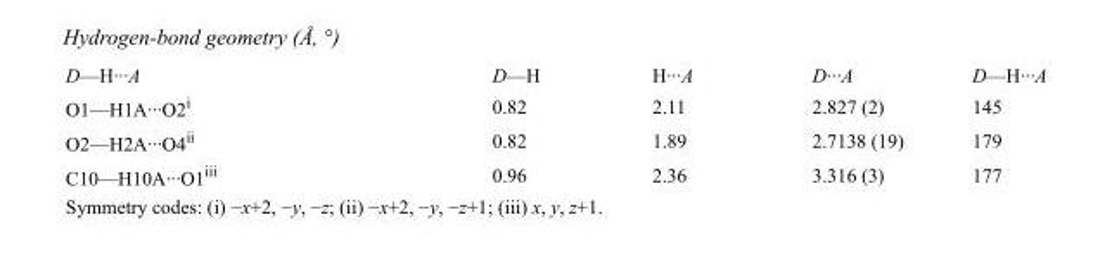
<table><tbody><tr><td>D—H···A</td><td>D—H</td><td>H···A</td><td>D···A</td><td>D—H···A</td></tr><tr><td>O1—H1A···O2<sup>i</sup></td><td>0.82</td><td>2.11</td><td>2.827 (2)</td><td>145</td></tr><tr><td>O2—H2A···O4<sup>ii</sup></td><td>0.82</td><td>1.89</td><td>2.7138 (19)</td><td>179</td></tr><tr><td>C10—H10A···O1<sup>iii</sup></td><td>0.96</td><td>2.36</td><td>3.316 (3)</td><td>177</td></tr></tbody></table>